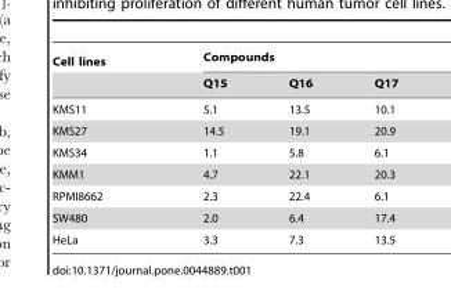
<table><thead><tr><td rowspan="2">Cell lines</td><td colspan="3">Compounds</td></tr><tr><td>Q15</td><td>Q16</td><td>Q17</td></tr></thead><tbody><tr><td>KMS11</td><td>5.1</td><td>13.5</td><td>10.1</td></tr><tr><td>KMS27</td><td>14.5</td><td>19.1</td><td>20.9</td></tr><tr><td>KMS34</td><td>1.1</td><td>5.8</td><td>6.1</td></tr><tr><td>KMM1</td><td>4.7</td><td>22.1</td><td>20.3</td></tr><tr><td>RPMI8662</td><td>2.3</td><td>22.4</td><td>6.1</td></tr><tr><td>SW480</td><td>2.0</td><td>6.4</td><td>17.4</td></tr><tr><td>HeLa</td><td>3.3</td><td>7.3</td><td>13.5</td></tr></tbody></table>